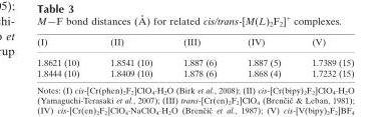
<table><tbody><tr><td>(I)</td><td>(II)</td><td>(III)</td><td>(IV)</td><td>(V)</td></tr><tr><td>1.8621 (10)</td><td>1.8541 (10)</td><td>1.887 (6)</td><td>1.887 (5)</td><td>1.7389 (15)</td></tr><tr><td>1.8444 (10)</td><td>1.8409 (10)</td><td>1.878 (6)</td><td>1.868 (4)</td><td>1.7232 (15)</td></tr></tbody></table>